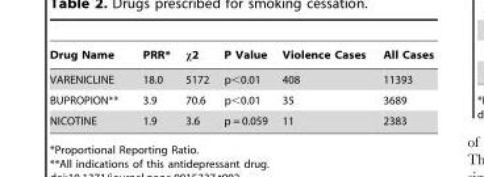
<table><thead><tr><td>Drug Name</td><td>PRR*</td><td>x2</td><td>P Value</td><td>Violence Cases</td><td>All Cases</td></tr></thead><tbody><tr><td>VARENICLINE</td><td>18.0</td><td>5172</td><td>p&lt;0.01</td><td>408</td><td>11393</td></tr><tr><td>BUPROPION**</td><td>3.9</td><td>70.6</td><td>p&lt;0.01</td><td>35</td><td>3689</td></tr><tr><td>NICOTINE</td><td>1.9</td><td>3.6</td><td>p = 0.059</td><td>11</td><td>2383</td></tr></tbody></table>